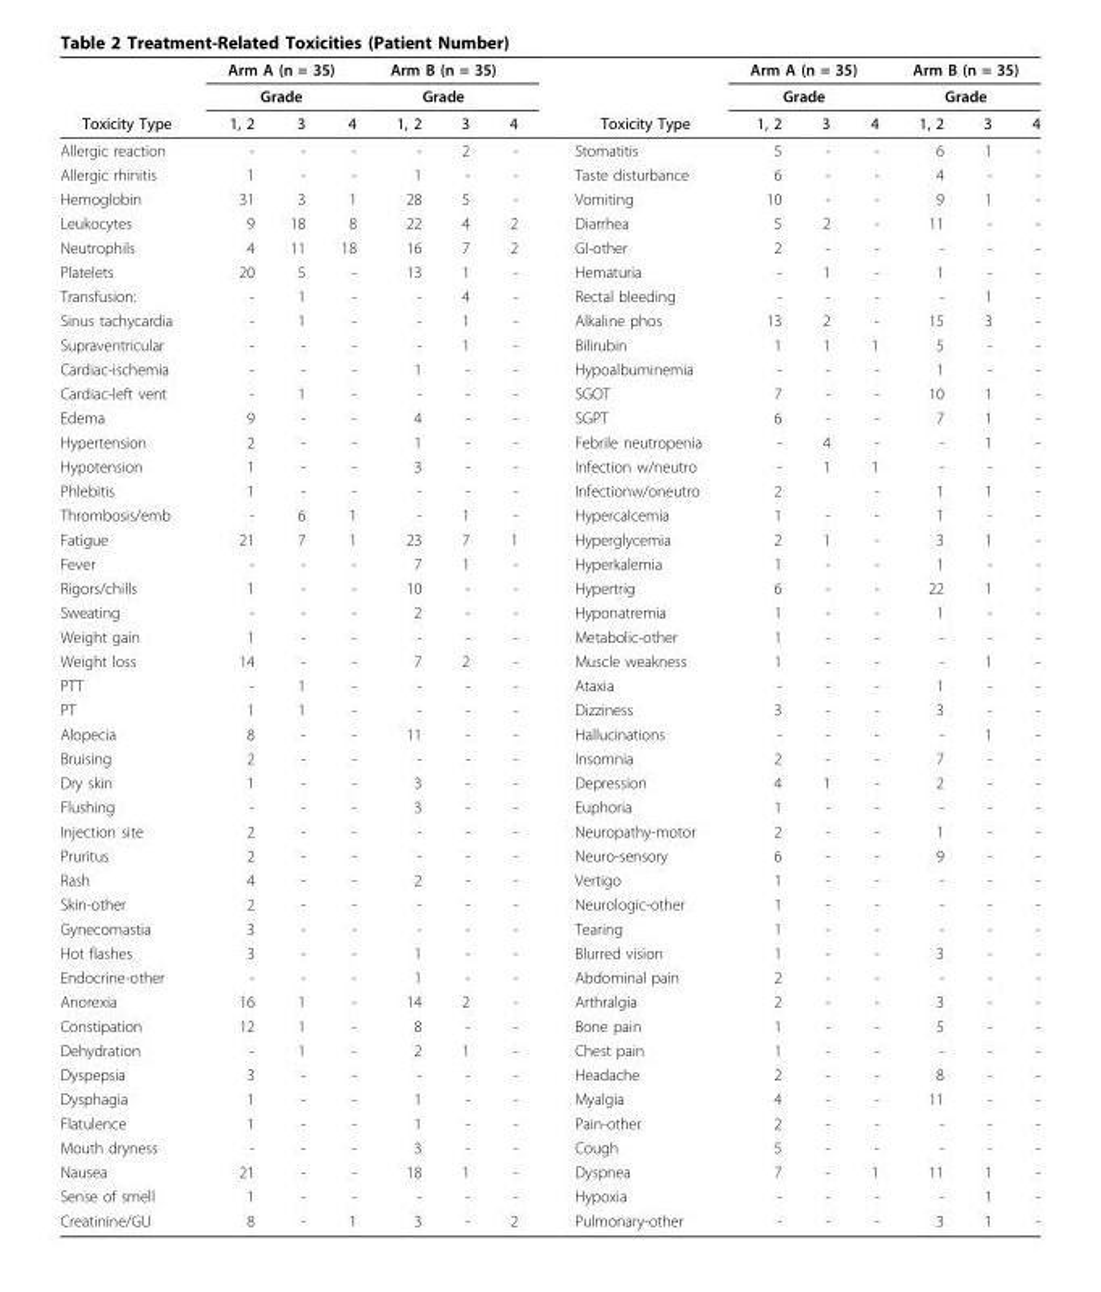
<table><thead><tr><td rowspan="3">Toxicity Type</td><td rowspan="2" colspan="3">Arm A (n = 35) Grade</td><td rowspan="2" colspan="3">Arm B (n = 35) Grade</td><td rowspan="3">Toxicity Type</td><td rowspan="2" colspan="3">Arm A (n = 35) Grade</td><td rowspan="2" colspan="3">Arm B (n = 35) Grade</td></tr><tr></tr><tr><td>1, 2</td><td>3</td><td>4</td><td>1, 2</td><td>3</td><td>4</td><td>1, 2</td><td>3</td><td>4</td><td>1, 2</td><td>3</td><td>4</td></tr></thead><tbody><tr><td>Allergic reaction</td><td>-</td><td>-</td><td>-</td><td>-</td><td>2</td><td>-</td><td>Stomatitis</td><td>5</td><td>-</td><td>-</td><td>6</td><td>1</td><td>-</td></tr><tr><td>Allergic rhinitis</td><td>1</td><td>-</td><td>-</td><td>1</td><td>-</td><td>-</td><td>Taste disturbance</td><td>6</td><td>-</td><td>-</td><td>4</td><td>-</td><td>-</td></tr><tr><td>Hemoglobin</td><td>31</td><td>3</td><td>1</td><td>28</td><td>5</td><td>-</td><td>Vomiting</td><td>10</td><td>-</td><td>-</td><td>9</td><td>1</td><td>-</td></tr><tr><td>Leukocytes</td><td>9</td><td>18</td><td>8</td><td>22</td><td>4</td><td>2</td><td>Diarrhea</td><td>5</td><td>2</td><td>-</td><td>11</td><td>-</td><td>-</td></tr><tr><td>Neutrophils</td><td>4</td><td>11</td><td>18</td><td>16</td><td>7</td><td>2</td><td>GI-other</td><td>2</td><td>-</td><td>-</td><td>-</td><td>-</td><td>-</td></tr><tr><td>Platelets</td><td>20</td><td>5</td><td>-</td><td>13</td><td>1</td><td>-</td><td>Hematuria</td><td>-</td><td>1</td><td>-</td><td>1</td><td>-</td><td>-</td></tr><tr><td>Transfusion:</td><td>-</td><td>1</td><td>-</td><td>-</td><td>4</td><td>-</td><td>Rectal bleeding</td><td>-</td><td>-</td><td>-</td><td>-</td><td>1</td><td>-</td></tr><tr><td>Sinus tachycardia</td><td>-</td><td>1</td><td>-</td><td>-</td><td>1</td><td>-</td><td>Alkaline phos</td><td>13</td><td>2</td><td>-</td><td>15</td><td>3</td><td>-</td></tr><tr><td>Supraventricular</td><td>-</td><td>-</td><td>-</td><td>-</td><td>1</td><td>-</td><td>Bilirubin</td><td>1</td><td>1</td><td>1</td><td>5</td><td>-</td><td>-</td></tr><tr><td>Cardiac-ischemia</td><td>-</td><td>-</td><td>-</td><td>1</td><td>-</td><td>-</td><td>Hypoalbuminemia</td><td>-</td><td>-</td><td>-</td><td>1</td><td>-</td><td>-</td></tr><tr><td>Cardiac-left vent</td><td>-</td><td>1</td><td>-</td><td>-</td><td>-</td><td>-</td><td>SGOT</td><td>7</td><td>-</td><td>-</td><td>10</td><td>1</td><td>-</td></tr><tr><td>Edema</td><td>9</td><td>-</td><td>-</td><td>4</td><td>-</td><td>-</td><td>SGPT</td><td>6</td><td>-</td><td>-</td><td>7</td><td>1</td><td>-</td></tr><tr><td>Hypertension</td><td>2</td><td>-</td><td>-</td><td>1</td><td>-</td><td>-</td><td>Febrile neutropenia</td><td>-</td><td>4</td><td>-</td><td>-</td><td>1</td><td>-</td></tr><tr><td>Hypotension</td><td>1</td><td>-</td><td>-</td><td>3</td><td>-</td><td>-</td><td>Infection w/neutro</td><td>-</td><td>1</td><td>1</td><td>-</td><td>-</td><td>-</td></tr><tr><td>Phlebitis</td><td>1</td><td>-</td><td>-</td><td>-</td><td>-</td><td>-</td><td>Infectionw/oneutro</td><td>2</td><td></td><td>-</td><td>1</td><td>1</td><td>-</td></tr><tr><td>Thrombosis/emb</td><td>-</td><td>6</td><td>1</td><td>-</td><td>1</td><td>-</td><td>Hypercalcemia</td><td>1</td><td>-</td><td>-</td><td>1</td><td>-</td><td>-</td></tr><tr><td>Fatigue</td><td>21</td><td>7</td><td>1</td><td>23</td><td>7</td><td>1</td><td>Hyperglycemia</td><td>2</td><td>1</td><td>-</td><td>3</td><td>1</td><td>-</td></tr><tr><td>Fever</td><td>-</td><td>-</td><td>-</td><td>7</td><td>1</td><td>-</td><td>Hyperkalemia</td><td>1</td><td>-</td><td>-</td><td>1</td><td>-</td><td>-</td></tr><tr><td>Rigors/chills</td><td>1</td><td>-</td><td>-</td><td>10</td><td>-</td><td>-</td><td>Hypertrig</td><td>6</td><td>-</td><td>-</td><td>22</td><td>1</td><td>-</td></tr><tr><td>Sweating</td><td>-</td><td>-</td><td>-</td><td>2</td><td>-</td><td>-</td><td>Hyponatremia</td><td>1</td><td>-</td><td>-</td><td>1</td><td>-</td><td>-</td></tr><tr><td>Weight gain</td><td>1</td><td>-</td><td>-</td><td>-</td><td>-</td><td>-</td><td>Metabolic-other</td><td>1</td><td>-</td><td>-</td><td>-</td><td>-</td><td>-</td></tr><tr><td>Weight loss</td><td>14</td><td>-</td><td>-</td><td>7</td><td>2</td><td>-</td><td>Muscle weakness</td><td>1</td><td>-</td><td>-</td><td>-</td><td>1</td><td>-</td></tr><tr><td>PTT</td><td>-</td><td>1</td><td>-</td><td>-</td><td>-</td><td>-</td><td>Ataxia</td><td>-</td><td>-</td><td>-</td><td>1</td><td>-</td><td>-</td></tr><tr><td>PT</td><td>1</td><td>1</td><td>-</td><td>-</td><td>-</td><td>-</td><td>Dizziness</td><td>3</td><td>-</td><td>-</td><td>3</td><td>-</td><td>-</td></tr><tr><td>Alopecia</td><td>8</td><td>-</td><td>-</td><td>11</td><td>-</td><td>-</td><td>Hallucinations</td><td>-</td><td>-</td><td>-</td><td>-</td><td>1</td><td>-</td></tr><tr><td>Bruising</td><td>2</td><td>-</td><td>-</td><td>-</td><td>-</td><td>-</td><td>Insomnia</td><td>2</td><td>-</td><td>-</td><td>7</td><td>-</td><td>-</td></tr><tr><td>Dry skin</td><td>1</td><td>-</td><td>-</td><td>3</td><td>-</td><td>-</td><td>Depression</td><td>4</td><td>1</td><td>-</td><td>2</td><td>-</td><td>-</td></tr><tr><td>Flushing</td><td>-</td><td>-</td><td>-</td><td>3</td><td>-</td><td>-</td><td>Euphoria</td><td>1</td><td>-</td><td>-</td><td>-</td><td>-</td><td>-</td></tr><tr><td>Injection site</td><td>2</td><td>-</td><td>-</td><td>-</td><td>-</td><td>-</td><td>Neuropathy-motor</td><td>2</td><td>-</td><td>-</td><td>1</td><td>-</td><td>-</td></tr><tr><td>Pruritus</td><td>2</td><td>-</td><td>-</td><td>-</td><td>-</td><td>-</td><td>Neuro-sensory</td><td>6</td><td>-</td><td>-</td><td>9</td><td>-</td><td>-</td></tr><tr><td>Rash</td><td>4</td><td>-</td><td>-</td><td>2</td><td>-</td><td>-</td><td>Vertigo</td><td>1</td><td>-</td><td>-</td><td>-</td><td>-</td><td>-</td></tr><tr><td>Skin-other</td><td>2</td><td>-</td><td>-</td><td>-</td><td>-</td><td>-</td><td>Neurologic-other</td><td>1</td><td>-</td><td>-</td><td>-</td><td>-</td><td>-</td></tr><tr><td>Gynecomastia</td><td>3</td><td>-</td><td>-</td><td>-</td><td>-</td><td>-</td><td>Tearing</td><td>1</td><td>-</td><td>-</td><td>-</td><td>-</td><td>-</td></tr><tr><td>Hot flashes</td><td>3</td><td>-</td><td>-</td><td>1</td><td>-</td><td>-</td><td>Blurred vision</td><td>1</td><td>-</td><td>-</td><td>3</td><td>-</td><td>-</td></tr><tr><td>Endocrine-other</td><td>-</td><td>-</td><td>-</td><td>1</td><td>-</td><td>-</td><td>Abdominal pain</td><td>2</td><td>-</td><td>-</td><td>-</td><td>-</td><td>-</td></tr><tr><td>Anorexia</td><td>16</td><td>1</td><td>-</td><td>14</td><td>2</td><td>-</td><td>Arthralgia</td><td>2</td><td>-</td><td>-</td><td>3</td><td>-</td><td>-</td></tr><tr><td>Constipation</td><td>12</td><td>1</td><td>-</td><td>8</td><td>-</td><td>-</td><td>Bone pain</td><td>1</td><td>-</td><td>-</td><td>5</td><td>-</td><td>-</td></tr><tr><td>Dehydration</td><td>-</td><td>1</td><td>-</td><td>2</td><td>1</td><td>-</td><td>Chest pain</td><td>1</td><td>-</td><td>-</td><td>-</td><td>-</td><td>-</td></tr><tr><td>Dyspepsia</td><td>3</td><td>-</td><td>-</td><td>-</td><td>-</td><td>-</td><td>Headache</td><td>2</td><td>-</td><td>-</td><td>8</td><td>-</td><td>-</td></tr><tr><td>Dysphagia</td><td>1</td><td>-</td><td>-</td><td>1</td><td>-</td><td>-</td><td>Myalgia</td><td>4</td><td>-</td><td>-</td><td>11</td><td>-</td><td>-</td></tr><tr><td>Flatulence</td><td>1</td><td>-</td><td>-</td><td>1</td><td>-</td><td>-</td><td>Pain-other</td><td>2</td><td>-</td><td>-</td><td>-</td><td>-</td><td>-</td></tr><tr><td>Mouth dryness</td><td>-</td><td>-</td><td>-</td><td>3</td><td>-</td><td>-</td><td>Cough</td><td>5</td><td>-</td><td>-</td><td>-</td><td>-</td><td>-</td></tr><tr><td>Nausea</td><td>21</td><td>-</td><td>-</td><td>18</td><td>1</td><td>-</td><td>Dyspnea</td><td>7</td><td>-</td><td>1</td><td>11</td><td>1</td><td>-</td></tr><tr><td>Sense of smell</td><td>1</td><td>-</td><td>-</td><td>-</td><td>-</td><td>-</td><td>Hypoxia</td><td>-</td><td>-</td><td>-</td><td>-</td><td>1</td><td>-</td></tr><tr><td>Creatinine/GU</td><td>8</td><td>-</td><td>1</td><td>3</td><td>-</td><td>2</td><td>Pulmonary-other</td><td>-</td><td>-</td><td>-</td><td>3</td><td>1</td><td>-</td></tr></tbody></table>